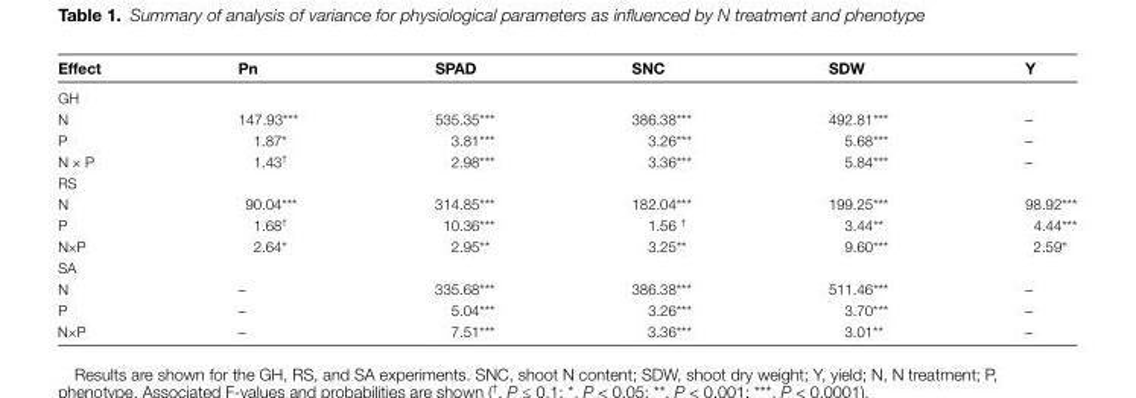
<table><thead><tr><td>Effect</td><td>Pn</td><td>SPAD</td><td>SNC</td><td>SDW</td><td>Y</td></tr></thead><tbody><tr><td colspan="6">GH</td></tr><tr><td>N</td><td>147.93***</td><td>535.35***</td><td>386.38***</td><td>492.81***</td><td>–</td></tr><tr><td>P</td><td>1.87*</td><td>3.81***</td><td>3.26***</td><td>5.68***</td><td>–</td></tr><tr><td>N × P</td><td>1.43<sup>†</sup></td><td>2.98***</td><td>3.36***</td><td>5.84***</td><td>–</td></tr><tr><td colspan="6">RS</td></tr><tr><td>N</td><td>90.04***</td><td>314.85***</td><td>182.04***</td><td>199.25***</td><td>98.92***</td></tr><tr><td>P</td><td>1.68<sup>†</sup></td><td>10.36***</td><td>1.56 <sup>†</sup></td><td>3.44**</td><td>4.44***</td></tr><tr><td>N×P</td><td>2.64*</td><td>2.95**</td><td>3.25**</td><td>9.60***</td><td>2.59*</td></tr><tr><td colspan="6">SA</td></tr><tr><td>N</td><td>–</td><td>335.68***</td><td>386.38***</td><td>511.46***</td><td>–</td></tr><tr><td>P</td><td>–</td><td>5.04***</td><td>3.26***</td><td>3.70***</td><td>–</td></tr><tr><td>N×P</td><td>–</td><td>7.51***</td><td>3.36***</td><td>3.01**</td><td>–</td></tr></tbody></table>